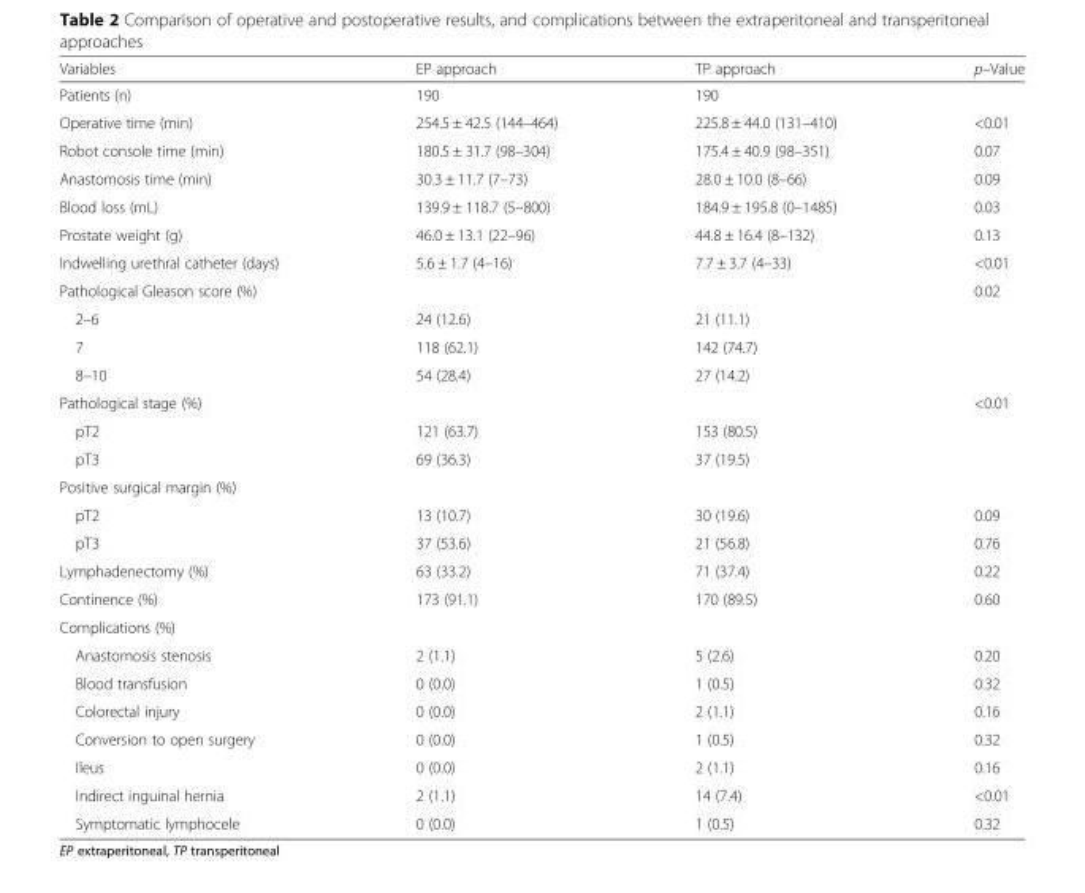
<table><thead><tr><td>Variables</td><td>EP approach</td><td>TP approach</td><td>p–Value</td></tr></thead><tbody><tr><td>Patients (n)</td><td>190</td><td>190</td><td></td></tr><tr><td>Operative time (min)</td><td>254.5 ± 42.5 (144–464)</td><td>225.8 ± 44.0 (131–410)</td><td>&lt;0.01</td></tr><tr><td>Robot console time (min)</td><td>180.5 ± 31.7 (98–304)</td><td>175.4 ± 40.9 (98–351)</td><td>0.07</td></tr><tr><td>Anastomosis time (min)</td><td>30.3 ± 11.7 (7–73)</td><td>28.0 ± 10.0 (8–66)</td><td>0.09</td></tr><tr><td>Blood loss (mL)</td><td>139.9 ± 118.7 (5–800)</td><td>184.9 ± 195.8 (0–1485)</td><td>0.03</td></tr><tr><td>Prostate weight (g)</td><td>46.0 ± 13.1 (22–96)</td><td>44.8 ± 16.4 (8–132)</td><td>0.13</td></tr><tr><td>Indwelling urethral catheter (days)</td><td>5.6 ± 1.7 (4–16)</td><td>7.7 ± 3.7 (4–33)</td><td>&lt;0.01</td></tr><tr><td>Pathological Gleason score (%)</td><td></td><td></td><td>0.02</td></tr><tr><td>2–6</td><td>24 (12.6)</td><td>21 (11.1)</td><td></td></tr><tr><td>7</td><td>118 (62.1)</td><td>142 (74.7)</td><td></td></tr><tr><td>8–10</td><td>54 (28.4)</td><td>27 (14.2)</td><td></td></tr><tr><td>Pathological stage (%)</td><td></td><td></td><td>&lt;0.01</td></tr><tr><td>pT2</td><td>121 (63.7)</td><td>153 (80.5)</td><td></td></tr><tr><td>pT3</td><td>69 (36.3)</td><td>37 (19.5)</td><td></td></tr><tr><td colspan="4">Positive surgical margin (%)</td></tr><tr><td>pT2</td><td>13 (10.7)</td><td>30 (19.6)</td><td>0.09</td></tr><tr><td>pT3</td><td>37 (53.6)</td><td>21 (56.8)</td><td>0.76</td></tr><tr><td>Lymphadenectomy (%)</td><td>63 (33.2)</td><td>71 (37.4)</td><td>0.22</td></tr><tr><td>Continence (%)</td><td>173 (91.1)</td><td>170 (89.5)</td><td>0.60</td></tr><tr><td colspan="4">Complications (%)</td></tr><tr><td>Anastomosis stenosis</td><td>2 (1.1)</td><td>5 (2.6)</td><td>0.20</td></tr><tr><td>Blood transfusion</td><td>0 (0.0)</td><td>1 (0.5)</td><td>0.32</td></tr><tr><td>Colorectal injury</td><td>0 (0.0)</td><td>2 (1.1)</td><td>0.16</td></tr><tr><td>Conversion to open surgery</td><td>0 (0.0)</td><td>1 (0.5)</td><td>0.32</td></tr><tr><td>Ileus</td><td>0 (0.0)</td><td>2 (1.1)</td><td>0.16</td></tr><tr><td>Indirect inguinal hernia</td><td>2 (1.1)</td><td>14 (7.4)</td><td>&lt;0.01</td></tr><tr><td>Symptomatic lymphocele</td><td>0 (0.0)</td><td>1 (0.5)</td><td>0.32</td></tr></tbody></table>